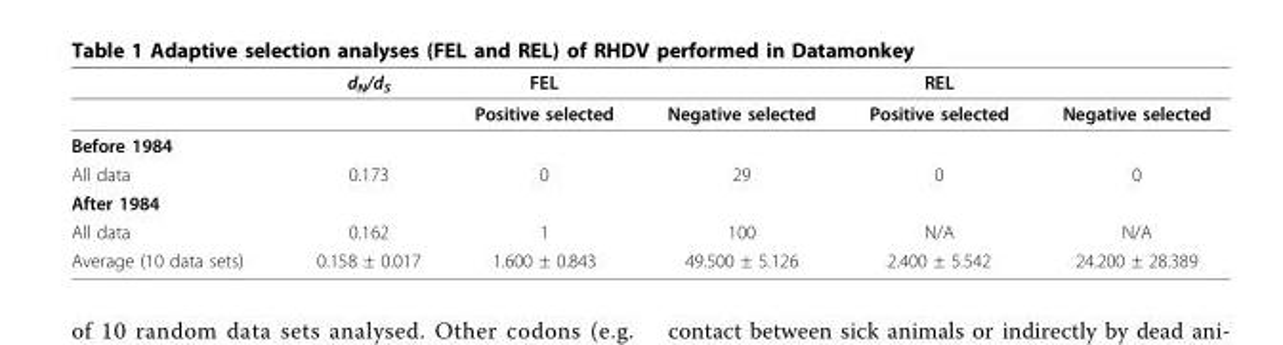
<table><thead><tr><td></td><td>d<sub>N</sub>/d<sub>S</sub></td><td>FEL</td><td></td><td>REL</td><td></td></tr></thead><tbody><tr><td></td><td></td><td>Positive selected</td><td>Negative selected</td><td>Positive selected</td><td>Negative selected</td></tr><tr><td colspan="6">Before 1984</td></tr><tr><td>All data</td><td>0.173</td><td>0</td><td>29</td><td>0</td><td>0</td></tr><tr><td colspan="6">After 1984</td></tr><tr><td>All data</td><td>0.162</td><td>1</td><td>100</td><td>N/A</td><td>N/A</td></tr><tr><td>Average (10 data sets)</td><td>0.158 ± 0.017</td><td>1.600 ± 0.843</td><td>49.500 ± 5.126</td><td>2.400 ± 5.542</td><td>24.200 ± 28.389</td></tr></tbody></table>